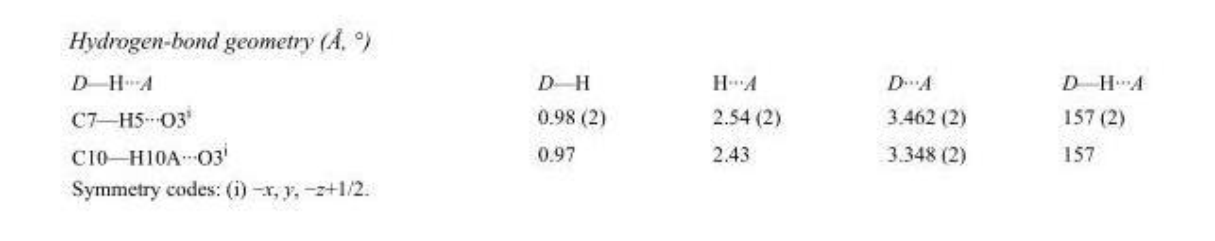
<table><tbody><tr><td>D—H···A</td><td>D—H</td><td>H···A</td><td>D···A</td><td>D—H···A</td></tr><tr><td>C7—H5···O3<sup>i</sup></td><td>0.98 (2)</td><td>2.54 (2)</td><td>3.462 (2)</td><td>157 (2)</td></tr><tr><td>C10—H10A···O3<sup>i</sup></td><td>0.97</td><td>2.43</td><td>3.348 (2)</td><td>157</td></tr></tbody></table>